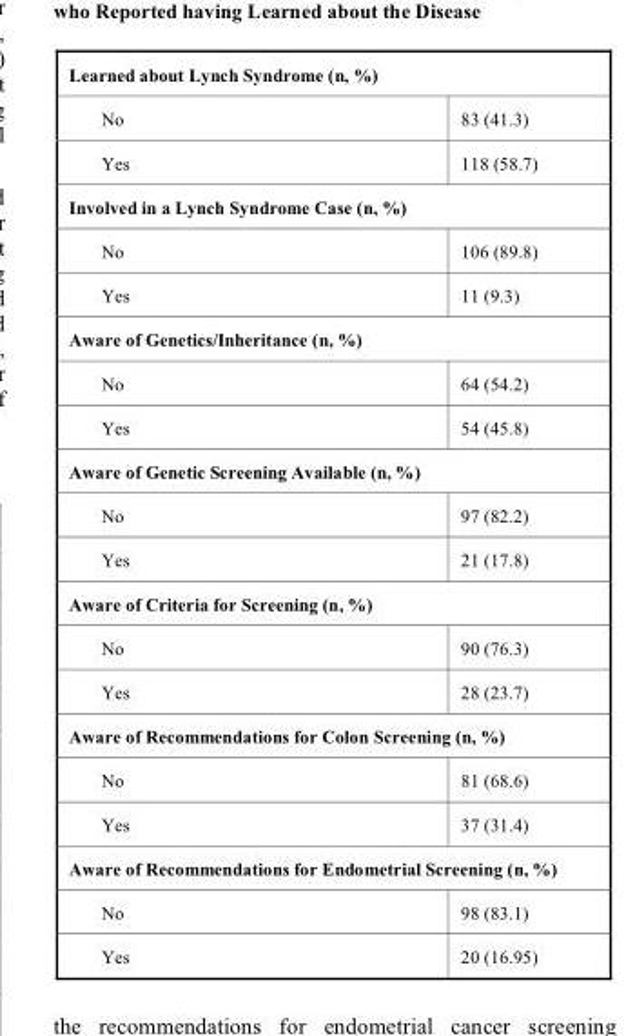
<table><tbody><tr><td colspan="2">Learned about Lynch Syndrome (n, %)</td></tr><tr><td>No</td><td>83 (41.3)</td></tr><tr><td>Yes</td><td>118 (58.7)</td></tr><tr><td colspan="2">Involved in a Lynch Syndrome Case (n, %)</td></tr><tr><td>No</td><td>106 (89.8)</td></tr><tr><td>Yes</td><td>11 (9.3)</td></tr><tr><td colspan="2">Aware of Genetics/Inheritance (n, %)</td></tr><tr><td>No</td><td>64 (54.2)</td></tr><tr><td>Yes</td><td>54 (45.8)</td></tr><tr><td colspan="2">Aware of Genetic Screening Available (n, %)</td></tr><tr><td>No</td><td>97 (82.2)</td></tr><tr><td>Yes</td><td>21 (17.8)</td></tr><tr><td colspan="2">Aware of Criteria for Screening (n, %)</td></tr><tr><td>No</td><td>90 (76.3)</td></tr><tr><td>Yes</td><td>28 (23.7)</td></tr><tr><td colspan="2">Aware of Recommendations for Colon Screening (n, %)</td></tr><tr><td>No</td><td>81 (68.6)</td></tr><tr><td>Yes</td><td>37 (31.4)</td></tr><tr><td colspan="2">Aware of Recommendations for Endometrial Screening (n, %)</td></tr><tr><td>No</td><td>98 (83.1)</td></tr><tr><td>Yes</td><td>20 (16.95)</td></tr></tbody></table>